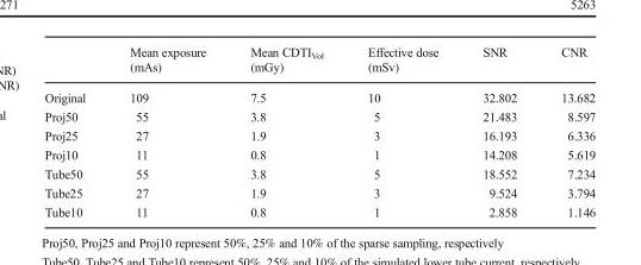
<table><thead><tr><td></td><td>Mean exposure (mAs)</td><td>Mean CDTI<sub>Vol</sub> (mGy)</td><td>Effective dose (mSv)</td><td>SNR</td><td>CNR</td></tr></thead><tbody><tr><td>Original</td><td>109</td><td>7.5</td><td>10</td><td>32.802</td><td>13.682</td></tr><tr><td>Proj50</td><td>55</td><td>3.8</td><td>5</td><td>21.483</td><td>8.597</td></tr><tr><td>Proj25</td><td>27</td><td>1.9</td><td>3</td><td>16.193</td><td>6.336</td></tr><tr><td>Proj10</td><td>11</td><td>0.8</td><td>1</td><td>14.208</td><td>5.619</td></tr><tr><td>Tube50</td><td>55</td><td>3.8</td><td>5</td><td>18.552</td><td>7.234</td></tr><tr><td>Tube25</td><td>27</td><td>1.9</td><td>3</td><td>9.524</td><td>3.794</td></tr><tr><td>Tube10</td><td>11</td><td>0.8</td><td>1</td><td>2.858</td><td>1.146</td></tr></tbody></table>